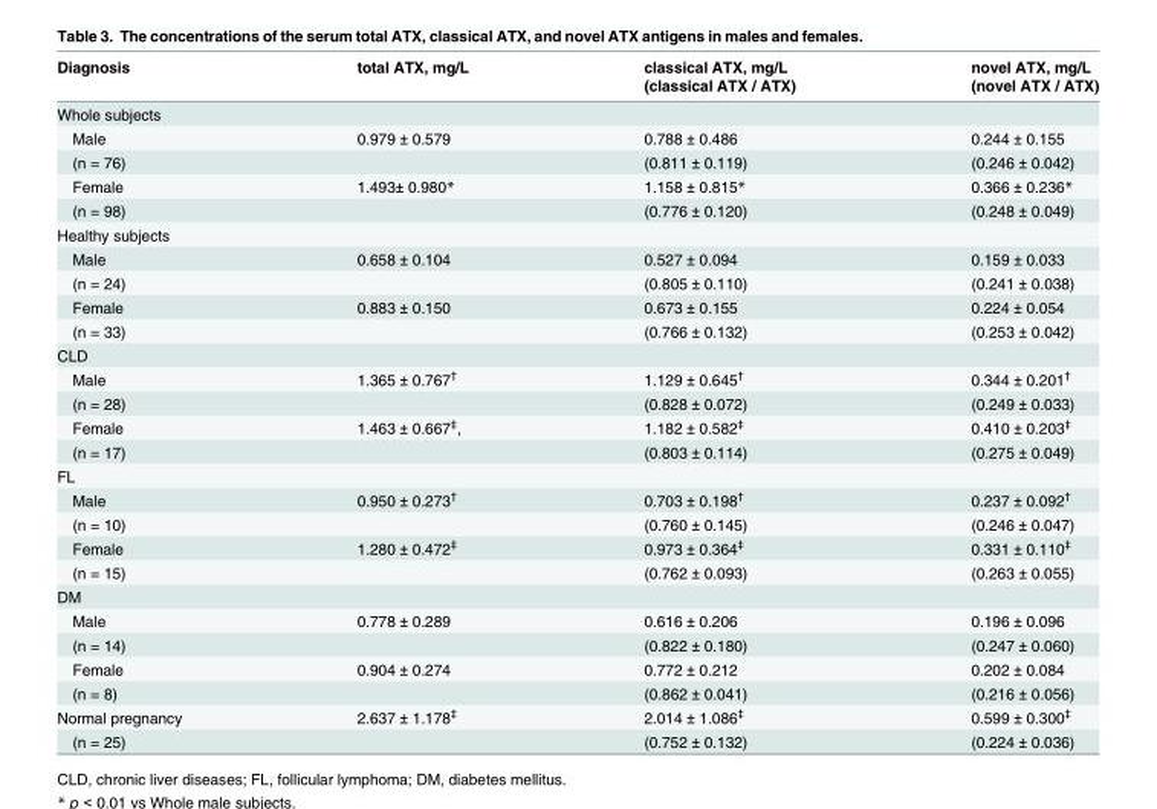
<table><thead><tr><td rowspan="2">Diagnosis</td><td rowspan="2">total ATX, mg/L</td><td rowspan="2">classical ATX, mg/L (classical ATX / ATX)</td><td rowspan="2">novel ATX, mg/L (novel ATX / ATX)</td></tr><tr></tr></thead><tbody><tr><td colspan="4">Whole subjects</td></tr><tr><td>Male</td><td>0.979 ± 0.579</td><td>0.788 ± 0.486</td><td>0.244 ± 0.155</td></tr><tr><td>(n = 76)</td><td></td><td>(0.811 ± 0.119)</td><td>(0.246 ± 0.042)</td></tr><tr><td>Female</td><td>1.493± 0.980*</td><td>1.158 ± 0.815*</td><td>0.366 ± 0.236*</td></tr><tr><td>(n = 98)</td><td></td><td>(0.776 ± 0.120)</td><td>(0.248 ± 0.049)</td></tr><tr><td colspan="4">Healthy subjects</td></tr><tr><td>Male</td><td>0.658 ± 0.104</td><td>0.527 ± 0.094</td><td>0.159 ± 0.033</td></tr><tr><td>(n = 24)</td><td></td><td>(0.805 ± 0.110)</td><td>(0.241 ± 0.038)</td></tr><tr><td>Female</td><td>0.883 ± 0.150</td><td>0.673 ± 0.155</td><td>0.224 ± 0.054</td></tr><tr><td>(n = 33)</td><td></td><td>(0.766 ± 0.132)</td><td>(0.253 ± 0.042)</td></tr><tr><td colspan="4">CLD</td></tr><tr><td>Male</td><td>1.365 ± 0.767<sup>†</sup></td><td>1.129 ± 0.645<sup>†</sup></td><td>0.344 ± 0.201<sup>†</sup></td></tr><tr><td>(n = 28)</td><td></td><td>(0.828 ± 0.072)</td><td>(0.249 ± 0.033)</td></tr><tr><td>Female</td><td>1.463 ± 0.667<sup>‡</sup>,</td><td>1.182 ± 0.582<sup>‡</sup></td><td>0.410 ± 0.203<sup>‡</sup></td></tr><tr><td>(n = 17)</td><td></td><td>(0.803 ± 0.114)</td><td>(0.275 ± 0.049)</td></tr><tr><td colspan="4">FL</td></tr><tr><td>Male</td><td>0.950 ± 0.273<sup>†</sup></td><td>0.703 ± 0.198<sup>†</sup></td><td>0.237 ± 0.092<sup>†</sup></td></tr><tr><td>(n = 10)</td><td></td><td>(0.760 ± 0.145)</td><td>(0.246 ± 0.047)</td></tr><tr><td>Female</td><td>1.280 ± 0.472<sup>‡</sup></td><td>0.973 ± 0.364<sup>‡</sup></td><td>0.331 ± 0.110<sup>‡</sup></td></tr><tr><td>(n = 15)</td><td></td><td>(0.762 ± 0.093)</td><td>(0.263 ± 0.055)</td></tr><tr><td colspan="4">DM</td></tr><tr><td>Male</td><td>0.778 ± 0.289</td><td>0.616 ± 0.206</td><td>0.196 ± 0.096</td></tr><tr><td>(n = 14)</td><td></td><td>(0.822 ± 0.180)</td><td>(0.247 ± 0.060)</td></tr><tr><td>Female</td><td>0.904 ± 0.274</td><td>0.772 ± 0.212</td><td>0.202 ± 0.084</td></tr><tr><td>(n = 8)</td><td></td><td>(0.862 ± 0.041)</td><td>(0.216 ± 0.056)</td></tr><tr><td>Normal pregnancy</td><td>2.637 ± 1.178<sup>‡</sup></td><td>2.014 ± 1.086<sup>‡</sup></td><td>0.599 ± 0.300<sup>‡</sup></td></tr><tr><td>(n = 25)</td><td></td><td>(0.752 ± 0.132)</td><td>(0.224 ± 0.036)</td></tr></tbody></table>